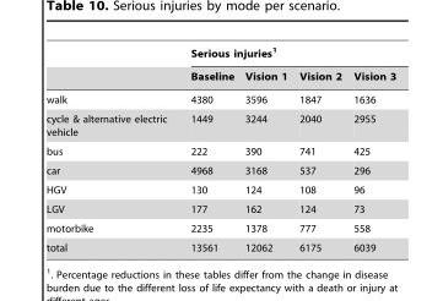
<table><thead><tr><td rowspan="2"></td><td colspan="4">Serious injuries<sup>1</sup></td></tr><tr><td>Baseline</td><td>Vision 1</td><td>Vision 2</td><td>Vision 3</td></tr></thead><tbody><tr><td>walk</td><td>4380</td><td>3596</td><td>1847</td><td>1636</td></tr><tr><td>cycle &amp; alternative electric vehicle</td><td>1449</td><td>3244</td><td>2040</td><td>2955</td></tr><tr><td>bus</td><td>222</td><td>390</td><td>741</td><td>425</td></tr><tr><td>car</td><td>4968</td><td>3168</td><td>537</td><td>296</td></tr><tr><td>HGV</td><td>130</td><td>124</td><td>108</td><td>96</td></tr><tr><td>LGV</td><td>177</td><td>162</td><td>124</td><td>73</td></tr><tr><td>motorbike</td><td>2235</td><td>1378</td><td>777</td><td>558</td></tr><tr><td>total</td><td>13561</td><td>12062</td><td>6175</td><td>6039</td></tr></tbody></table>